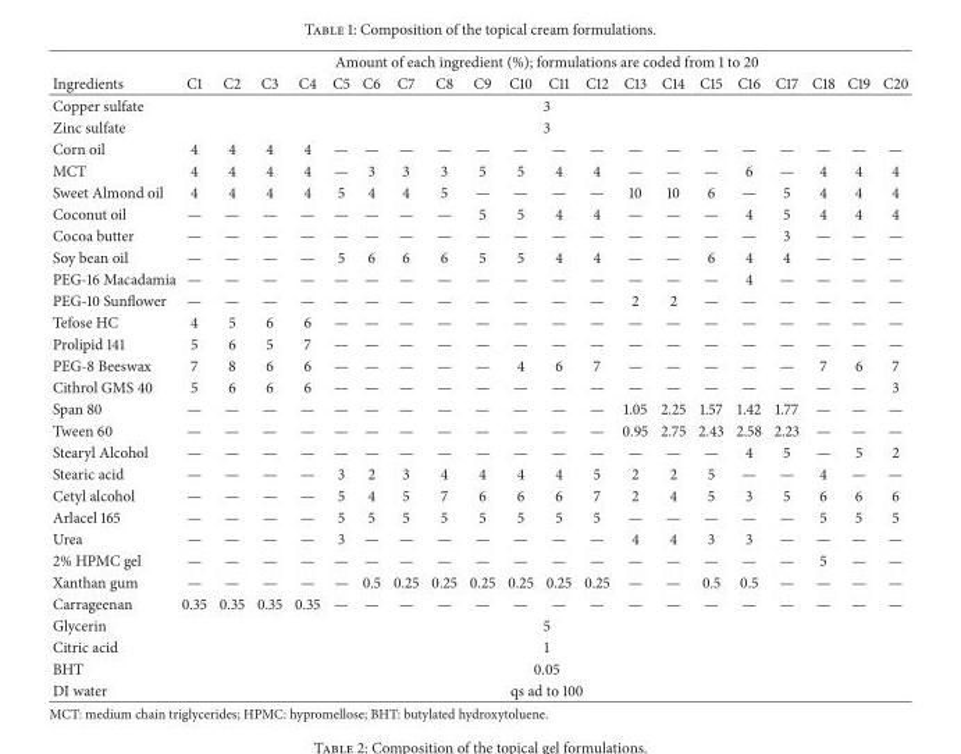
<table><thead><tr><td rowspan="2">Ingredients</td><td colspan="20">Amount of each ingredient (%); formulations are coded from 1 to 20</td></tr><tr><td>C1</td><td>C2</td><td>C3</td><td>C4</td><td>C5</td><td>C6</td><td>C7</td><td>C8</td><td>C9</td><td>C10</td><td>C11</td><td>C12</td><td>C13</td><td>C14</td><td>C15</td><td>C16</td><td>C17</td><td>C18</td><td>C19</td><td>C20</td></tr></thead><tbody><tr><td>Copper sulfate</td><td colspan="20">3</td></tr><tr><td>Zinc sulfate</td><td colspan="20">3</td></tr><tr><td>Corn oil</td><td>4</td><td>4</td><td>4</td><td>4</td><td>—</td><td>—</td><td>—</td><td>—</td><td>—</td><td>—</td><td>—</td><td>—</td><td>—</td><td>—</td><td>—</td><td>—</td><td>—</td><td>—</td><td>—</td><td>—</td></tr><tr><td>MCT</td><td>4</td><td>4</td><td>4</td><td>4</td><td>—</td><td>3</td><td>3</td><td>3</td><td>5</td><td>5</td><td>4</td><td>4</td><td>—</td><td>—</td><td>—</td><td>6</td><td>—</td><td>4</td><td>4</td><td>4</td></tr><tr><td>Sweet Almond oil</td><td>4</td><td>4</td><td>4</td><td>4</td><td>5</td><td>4</td><td>4</td><td>5</td><td>—</td><td>—</td><td>—</td><td>—</td><td>10</td><td>10</td><td>6</td><td>—</td><td>5</td><td>4</td><td>4</td><td>4</td></tr><tr><td>Coconut oil</td><td>—</td><td>—</td><td>—</td><td>—</td><td>—</td><td>—</td><td>—</td><td>—</td><td>5</td><td>5</td><td>4</td><td>4</td><td>—</td><td>—</td><td>—</td><td>4</td><td>5</td><td>4</td><td>4</td><td>4</td></tr><tr><td>Cocoa butter</td><td>—</td><td>—</td><td>—</td><td>—</td><td>—</td><td>—</td><td>—</td><td>—</td><td>—</td><td>—</td><td>—</td><td>—</td><td>—</td><td>—</td><td>—</td><td>—</td><td>3</td><td>—</td><td>—</td><td>—</td></tr><tr><td>Soy bean oil</td><td>—</td><td>—</td><td>—</td><td>—</td><td>5</td><td>6</td><td>6</td><td>6</td><td>5</td><td>5</td><td>4</td><td>4</td><td>—</td><td>—</td><td>6</td><td>4</td><td>4</td><td>—</td><td>—</td><td>—</td></tr><tr><td>PEG-16 Macadamia</td><td>—</td><td>—</td><td>—</td><td>—</td><td>—</td><td>—</td><td>—</td><td>—</td><td>—</td><td>—</td><td>—</td><td>—</td><td>—</td><td>—</td><td>—</td><td>4</td><td>—</td><td>—</td><td>—</td><td>—</td></tr><tr><td>PEG-10 Sunflower</td><td>—</td><td>—</td><td>—</td><td>—</td><td>—</td><td>—</td><td>—</td><td>—</td><td>—</td><td>—</td><td>—</td><td>—</td><td>2</td><td>2</td><td>—</td><td>—</td><td>—</td><td>—</td><td>—</td><td>—</td></tr><tr><td>Tefose HC</td><td>4</td><td>5</td><td>6</td><td>6</td><td>—</td><td>—</td><td>—</td><td>—</td><td>—</td><td>—</td><td>—</td><td>—</td><td>—</td><td>—</td><td>—</td><td>—</td><td>—</td><td>—</td><td>—</td><td>—</td></tr><tr><td>Prolipid 141</td><td>5</td><td>6</td><td>5</td><td>7</td><td>—</td><td>—</td><td>—</td><td>—</td><td>—</td><td>—</td><td>—</td><td>—</td><td>—</td><td>—</td><td>—</td><td>—</td><td>—</td><td>—</td><td>—</td><td>—</td></tr><tr><td>PEG-8 Beeswax</td><td>7</td><td>8</td><td>6</td><td>6</td><td>—</td><td>—</td><td>—</td><td>—</td><td>—</td><td>4</td><td>6</td><td>7</td><td>—</td><td>—</td><td>—</td><td>—</td><td>—</td><td>7</td><td>6</td><td>7</td></tr><tr><td>Cithrol GMS 40</td><td>5</td><td>6</td><td>6</td><td>6</td><td>—</td><td>—</td><td>—</td><td>—</td><td>—</td><td>—</td><td>—</td><td>—</td><td>—</td><td>—</td><td>—</td><td>—</td><td>—</td><td>—</td><td>—</td><td>3</td></tr><tr><td>Span 80</td><td>—</td><td>—</td><td>—</td><td>—</td><td>—</td><td>—</td><td>—</td><td>—</td><td>—</td><td>—</td><td>—</td><td>—</td><td>1.05</td><td>2.25</td><td>1.57</td><td>1.42</td><td>1.77</td><td>—</td><td>—</td><td>—</td></tr><tr><td>Tween 60</td><td>—</td><td>—</td><td>—</td><td>—</td><td>—</td><td>—</td><td>—</td><td>—</td><td>—</td><td>—</td><td>—</td><td>—</td><td>0.95</td><td>2.75</td><td>2.43</td><td>2.58</td><td>2.23</td><td>—</td><td>—</td><td>—</td></tr><tr><td>Stearyl Alcohol</td><td>—</td><td>—</td><td>—</td><td>—</td><td>—</td><td>—</td><td>—</td><td>—</td><td>—</td><td>—</td><td>—</td><td>—</td><td>—</td><td>—</td><td>—</td><td>4</td><td>5</td><td>—</td><td>5</td><td>2</td></tr><tr><td>Stearic acid</td><td>—</td><td>—</td><td>—</td><td>—</td><td>3</td><td>2</td><td>3</td><td>4</td><td>4</td><td>4</td><td>4</td><td>5</td><td>2</td><td>2</td><td>5</td><td>—</td><td>—</td><td>4</td><td>—</td><td>—</td></tr><tr><td>Cetyl alcohol</td><td>—</td><td>—</td><td>—</td><td>—</td><td>5</td><td>4</td><td>5</td><td>7</td><td>6</td><td>6</td><td>6</td><td>7</td><td>2</td><td>4</td><td>5</td><td>3</td><td>5</td><td>6</td><td>6</td><td>6</td></tr><tr><td>Arlacel 165</td><td>—</td><td>—</td><td>—</td><td>—</td><td>5</td><td>5</td><td>5</td><td>5</td><td>5</td><td>5</td><td>5</td><td>5</td><td>—</td><td>—</td><td>—</td><td>—</td><td>—</td><td>5</td><td>5</td><td>5</td></tr><tr><td>Urea</td><td>—</td><td>—</td><td>—</td><td>—</td><td>3</td><td>—</td><td>—</td><td>—</td><td>—</td><td>—</td><td>—</td><td>—</td><td>4</td><td>4</td><td>3</td><td>3</td><td>—</td><td>—</td><td>—</td><td>—</td></tr><tr><td>2% HPMC gel</td><td>—</td><td>—</td><td>—</td><td>—</td><td>—</td><td>—</td><td>—</td><td>—</td><td>—</td><td>—</td><td>—</td><td>—</td><td>—</td><td>—</td><td>—</td><td>—</td><td>—</td><td>5</td><td>—</td><td>—</td></tr><tr><td>Xanthan gum</td><td>—</td><td>—</td><td>—</td><td>—</td><td>—</td><td>0.5</td><td>0.25</td><td>0.25</td><td>0.25</td><td>0.25</td><td>0.25</td><td>0.25</td><td>—</td><td>—</td><td>0.5</td><td>0.5</td><td>—</td><td>—</td><td>—</td><td>—</td></tr><tr><td>Carrageenan</td><td>0.35</td><td>0.35</td><td>0.35</td><td>0.35</td><td>—</td><td>—</td><td>—</td><td>—</td><td>—</td><td>—</td><td>—</td><td>—</td><td>—</td><td>—</td><td>—</td><td>—</td><td>—</td><td>—</td><td>—</td><td>—</td></tr><tr><td>Glycerin</td><td colspan="20">5</td></tr><tr><td>Citric acid</td><td colspan="20">1</td></tr><tr><td>BHT</td><td colspan="20">0.05</td></tr><tr><td>DI water</td><td colspan="20">qs ad to 100</td></tr></tbody></table>